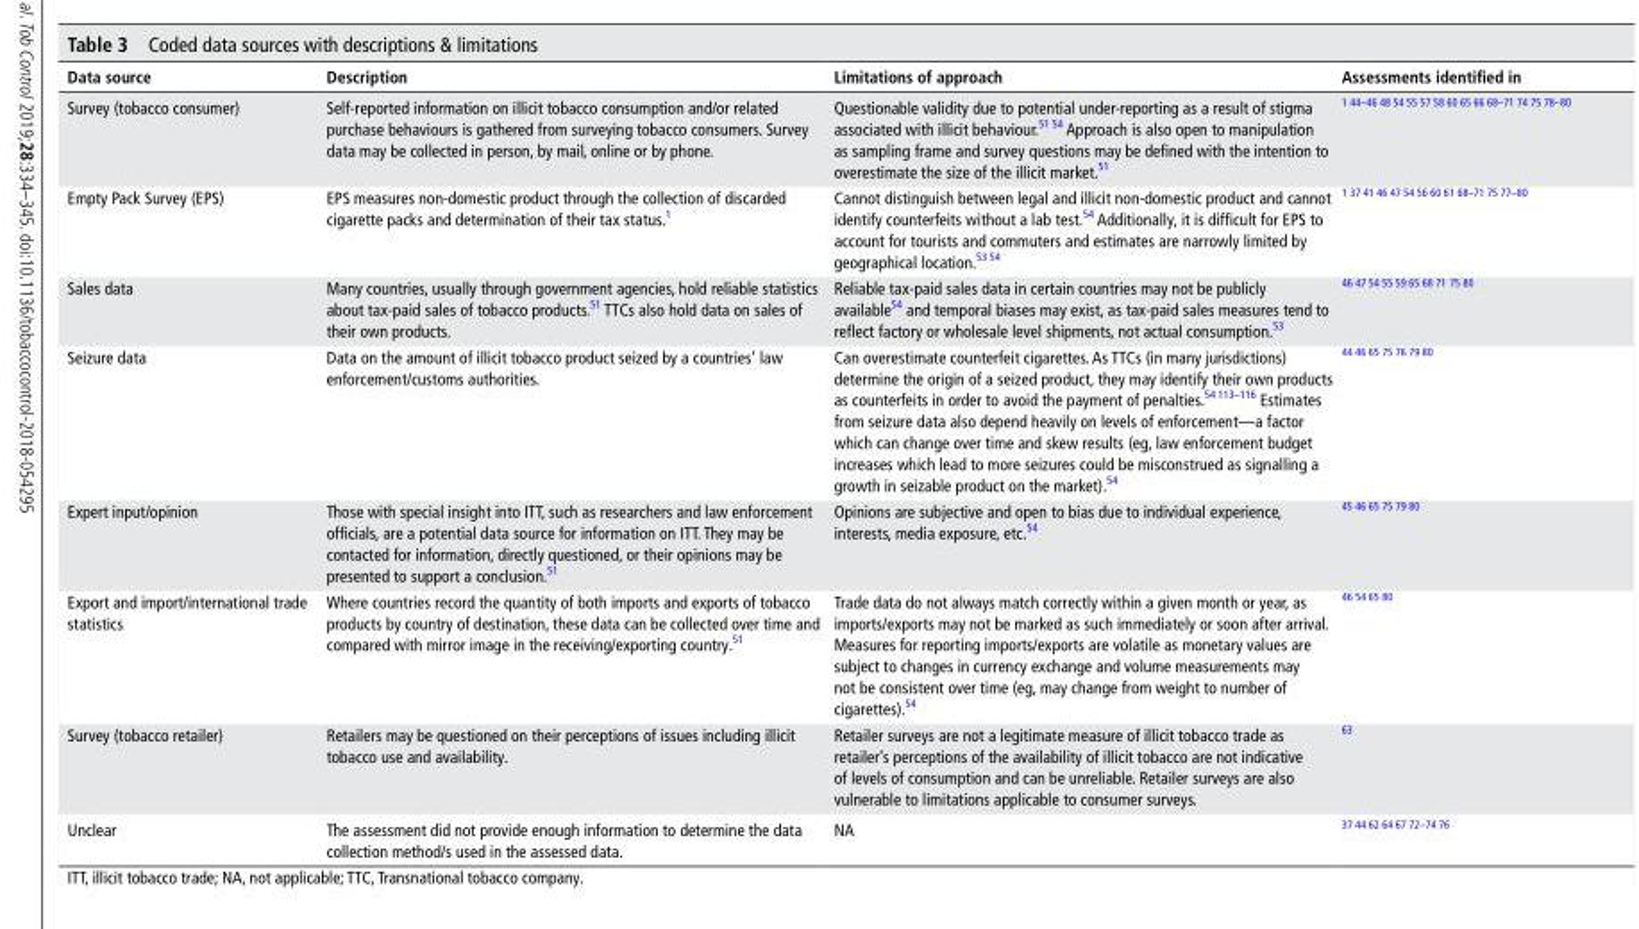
<table><thead><tr><td>Data source</td><td>Description</td><td>limitations of approach</td><td>Assessments identified in</td></tr></thead><tbody><tr><td>Survey (tobacco consumer)</td><td>Self-reported information on illicit tobacco consumption and/or related purchase behaviours is gathered from surveying tobacco consumers. Survey data may be collected in person, by mail, online or by phone.</td><td>Questionable validity due to potential under-reporting as a result of stigma associated with illicit behaviour.<sup>51 54</sup> Approach is also open to manipulation as sampling frame and survey questions may be defined with the intention to overestimate the size of the illicit market.<sup>51</sup></td><td>1 44–46 48 54 55 57 58 60 65 66 68–71 74 75 78–80</td></tr><tr><td>Empty Pack Survey (EPS)</td><td>EPS measures non-domestic product through the collection of discarded cigarette packs and determination of their tax status.<sup>1</sup></td><td>Cannot distinguish between legal and illicit non-domestic product and cannot identify counterfeits without a lab test.<sup>54</sup> Additionally, it is difficult for EPS to account for tourists and commuters and estimates are narrowly limited by geographical location.<sup>53 54</sup></td><td>1 37 41 46 47 54 56 60 61 68–71 75 77–80</td></tr><tr><td>Sales data</td><td>Many countries, usually through government agencies, hold reliable statistics about tax-paid sales of tobacco products.<sup>51</sup> TTCs also hold data on sales of their own products.</td><td>Reliable tax-paid sales data in certain countries may not be publicly available<sup>54</sup> and temporal biases may exist, as tax-paid sales measures tend to reflect factory or wholesale level shipments, not actual consumption.<sup>53</sup></td><td>46 47 54 55 59 65 68 71 75 80</td></tr><tr><td>Seizure data</td><td>Data on the amount of illicit tobacco product seized by a countries’ law enforcement/customs authorities.</td><td>Can overestimate counterfeit cigarettes. As TTCs (in many jurisdictions) determine the origin of a seized product, they may identify their own products as counterfeits in order to avoid the payment of penalties.<sup>54 113–116</sup> Estimates from seizure data also depend heavily on levels of enforcement—a factor which can change over time and skew results (eg, law enforcement budget increases which lead to more seizures could be misconstrued as signalling a growth in seizable product on the market).<sup>54</sup></td><td>44 46 65 75 76 79 80</td></tr><tr><td>Expert input/opinion</td><td>Those with special insight into ITT, such as researchers and law enforcement officials, are a potential data source for information on ITT. They may be contacted for information, directly questioned, or their opinions may be presented to support a conclusion.<sup>51</sup></td><td>Opinions are subjective and open to bias due to individual experience, interests, media exposure, etc.<sup>54</sup></td><td>45 46 65 75 79 80</td></tr><tr><td>Export and import/international trade statistics</td><td>Where countries record the quantity of both imports and exports of tobacco products by country of destination, these data can be collected over time and compared with mirror image in the receiving/exporting country.<sup>51</sup></td><td>Trade data do not always match correctly within a given month or year, as imports/exports may not be marked as such immediately or soon after arrival. Measures for reporting imports/exports are volatile as monetary values are subject to changes in currency exchange and volume measurements may not be consistent over time (eg, may change from weight to number of cigarettes).<sup>54</sup></td><td>46 54 65 80</td></tr><tr><td>Survey (tobacco retailer)</td><td>Retailers may be questioned on their perceptions of issues including illicit tobacco use and availability.</td><td>Retailer surveys are not a legitimate measure of illicit tobacco trade as retailer’s perceptions of the availability of illicit tobacco are not indicative of levels of consumption and can be unreliable. Retailer surveys are also vulnerable to limitations applicable to consumer surveys.</td><td>63</td></tr><tr><td>Unclear</td><td>The assessment did not provide enough information to determine the data collection method/s used in the assessed data.</td><td>NA</td><td>37 44 62 64 67 72–74 76</td></tr></tbody></table>